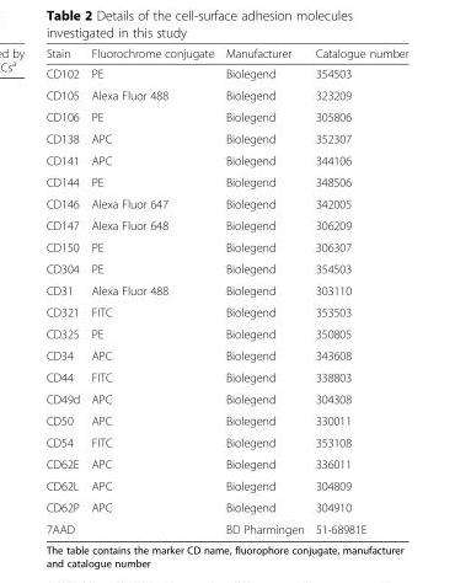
<table><thead><tr><td>Stain</td><td>Fluorochrome conjugate</td><td>Manufacturer</td><td>Catalogue number</td></tr></thead><tbody><tr><td>CD102</td><td>PE</td><td>Biolegend</td><td>354503</td></tr><tr><td>CD105</td><td>Alexa Fluor 488</td><td>Biolegend</td><td>323209</td></tr><tr><td>CD106</td><td>PE</td><td>Biolegend</td><td>305806</td></tr><tr><td>CD138</td><td>APC</td><td>Biolegend</td><td>352307</td></tr><tr><td>CD141</td><td>APC</td><td>Biolegend</td><td>344106</td></tr><tr><td>CD144</td><td>PE</td><td>Biolegend</td><td>348506</td></tr><tr><td>CD146</td><td>Alexa Fluor 647</td><td>Biolegend</td><td>342005</td></tr><tr><td>CD147</td><td>Alexa Fluor 648</td><td>Biolegend</td><td>306209</td></tr><tr><td>CD150</td><td>PE</td><td>Biolegend</td><td>306307</td></tr><tr><td>CD304</td><td>PE</td><td>Biolegend</td><td>354503</td></tr><tr><td>CD31</td><td>Alexa Fluor 488</td><td>Biolegend</td><td>303110</td></tr><tr><td>CD321</td><td>FITC</td><td>Biolegend</td><td>353503</td></tr><tr><td>CD325</td><td>PE</td><td>Biolegend</td><td>350805</td></tr><tr><td>CD34</td><td>APC</td><td>Biolegend</td><td>343608</td></tr><tr><td>CD44</td><td>FITC</td><td>Biolegend</td><td>338803</td></tr><tr><td>CD49d</td><td>APC</td><td>Biolegend</td><td>304308</td></tr><tr><td>CD50</td><td>APC</td><td>Biolegend</td><td>330011</td></tr><tr><td>CD54</td><td>FITC</td><td>Biolegend</td><td>353108</td></tr><tr><td>CD62E</td><td>APC</td><td>Biolegend</td><td>336011</td></tr><tr><td>CD62L</td><td>APC</td><td>Biolegend</td><td>304809</td></tr><tr><td>CD62P</td><td>APC</td><td>Biolegend</td><td>304910</td></tr><tr><td>7AAD</td><td></td><td>BD Pharmingen</td><td>51-68981E</td></tr></tbody></table>